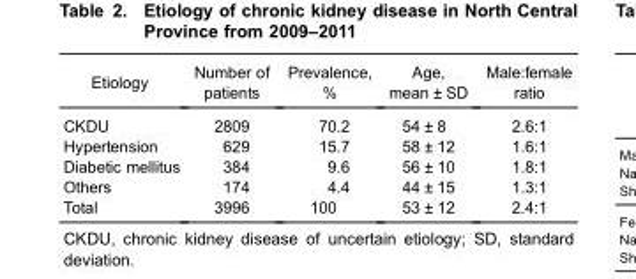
<table><thead><tr><td>Etiology</td><td>Number of patients</td><td>Prevalence, %</td><td>Age, mean ± SD</td><td>Male:female ratio</td></tr></thead><tbody><tr><td>CKDU</td><td>2809</td><td>70.2</td><td>54 ± 8</td><td>2.6:1</td></tr><tr><td>Hypertension</td><td>629</td><td>15.7</td><td>58 ± 12</td><td>1.6:1</td></tr><tr><td>Diabetic mellitus</td><td>384</td><td>9.6</td><td>56 ± 10</td><td>1.8:1</td></tr><tr><td>Others</td><td>174</td><td>4.4</td><td>44 ± 15</td><td>1.3:1</td></tr><tr><td>Total</td><td>3996</td><td>100</td><td>53 ± 12</td><td>2.4:1</td></tr></tbody></table>